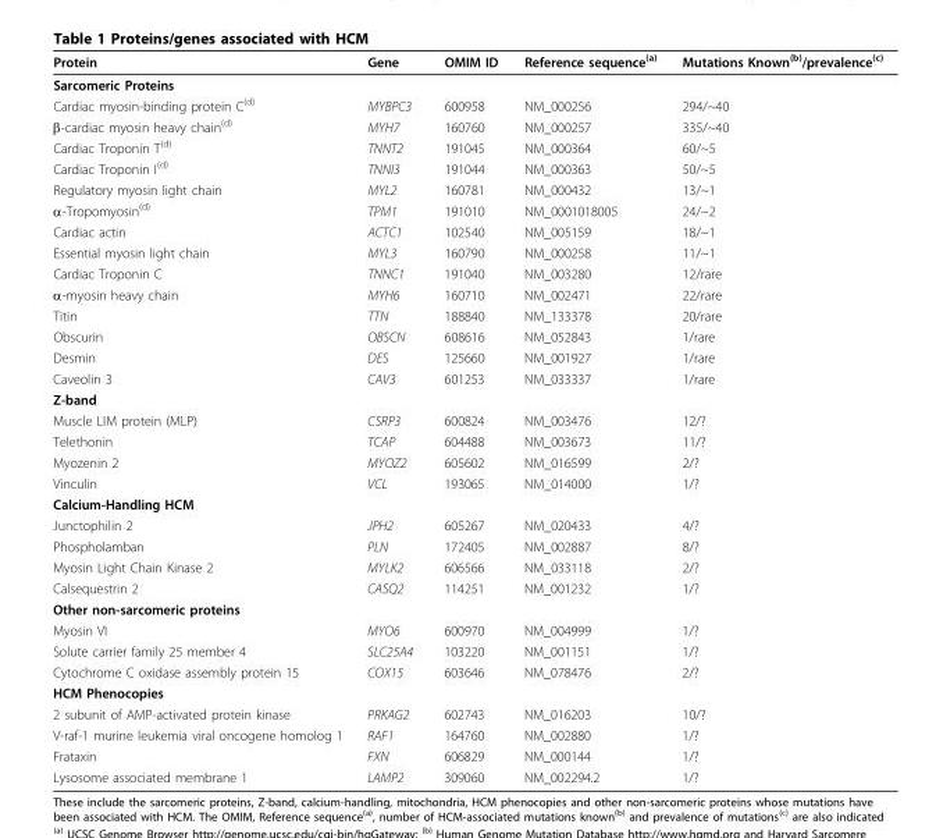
<table><thead><tr><td>Protein</td><td>Gene</td><td>OMIM ID</td><td>Reference sequence<sup>(a)</sup></td><td>Mutations Known<sup>(b)</sup>/prevalence<sup>(c)</sup></td></tr></thead><tbody><tr><td colspan="5">Sarcomeric Proteins</td></tr><tr><td>Cardiac myosin-binding protein C<sup>(d)</sup></td><td>MYBPC3</td><td>600958</td><td>NM_000256</td><td>294/~40</td></tr><tr><td>β-cardiac myosin heavy chain<sup>(d)</sup></td><td>MYH7</td><td>160760</td><td>NM_000257</td><td>335/~40</td></tr><tr><td>Cardiac Troponin T<sup>(d)</sup></td><td>TNNT2</td><td>191045</td><td>NM_000364</td><td>60/~5</td></tr><tr><td>Cardiac Troponin I<sup>(d)</sup></td><td>TNNI3</td><td>191044</td><td>NM_000363</td><td>50/~5</td></tr><tr><td>Regulatory myosin light chain</td><td>MYL2</td><td>160781</td><td>NM_000432</td><td>13/~1</td></tr><tr><td>α-Tropomyosin<sup>(d)</sup></td><td>TPM1</td><td>191010</td><td>NM_0001018005</td><td>24/~2</td></tr><tr><td>Cardiac actin</td><td>ACTC1</td><td>102540</td><td>NM_005159</td><td>18/~1</td></tr><tr><td>Essential myosin light chain</td><td>MYL3</td><td>160790</td><td>NM_000258</td><td>11/~1</td></tr><tr><td>Cardiac Troponin C</td><td>TNNC1</td><td>191040</td><td>NM_003280</td><td>12/rare</td></tr><tr><td>α-myosin heavy chain</td><td>MYH6</td><td>160710</td><td>NM_002471</td><td>22/rare</td></tr><tr><td>Titin</td><td>TTN</td><td>188840</td><td>NM_133378</td><td>20/rare</td></tr><tr><td>Obscurin</td><td>OBSCN</td><td>608616</td><td>NM_052843</td><td>1/rare</td></tr><tr><td>Desmin</td><td>DES</td><td>125660</td><td>NM_001927</td><td>1/rare</td></tr><tr><td>Caveolin 3</td><td>CAV3</td><td>601253</td><td>NM_033337</td><td>1/rare</td></tr><tr><td colspan="5">Z-band</td></tr><tr><td>Muscle LIM protein (MLP)</td><td>CSRP3</td><td>600824</td><td>NM_003476</td><td>12/?</td></tr><tr><td>Telethonin</td><td>TCAP</td><td>604488</td><td>NM_003673</td><td>11/?</td></tr><tr><td>Myozenin 2</td><td>MYOZ2</td><td>605602</td><td>NM_016599</td><td>2/?</td></tr><tr><td>Vinculin</td><td>VCL</td><td>193065</td><td>NM_014000</td><td>1/?</td></tr><tr><td colspan="5">Calcium-Handling HCM</td></tr><tr><td>Junctophilin 2</td><td>JPH2</td><td>605267</td><td>NM_020433</td><td>4/?</td></tr><tr><td>Phospholamban</td><td>PLN</td><td>172405</td><td>NM_002887</td><td>8/?</td></tr><tr><td>Myosin Light Chain Kinase 2</td><td>MYLK2</td><td>606566</td><td>NM_033118</td><td>2/?</td></tr><tr><td>Calsequestrin 2</td><td>CASQ2</td><td>114251</td><td>NM_001232</td><td>1/?</td></tr><tr><td colspan="5">Other non-sarcomeric proteins</td></tr><tr><td>Myosin VI</td><td>MYO6</td><td>600970</td><td>NM_004999</td><td>1/?</td></tr><tr><td>Solute carrier family 25 member 4</td><td>SLC25A4</td><td>103220</td><td>NM_001151</td><td>1/?</td></tr><tr><td>Cytochrome C oxidase assembly protein 15</td><td>COX15</td><td>603646</td><td>NM_078476</td><td>2/?</td></tr><tr><td colspan="5">HCM Phenocopies</td></tr><tr><td>2 subunit of AMP-activated protein kinase</td><td>PRKAG2</td><td>602743</td><td>NM_016203</td><td>10/?</td></tr><tr><td>V-raf-1 murine leukemia viral oncogene homolog 1</td><td>RAF1</td><td>164760</td><td>NM_002880</td><td>1/?</td></tr><tr><td>Frataxin</td><td>FXN</td><td>606829</td><td>NM_000144</td><td>1/?</td></tr><tr><td>Lysosome associated membrane 1</td><td>LAMP2</td><td>309060</td><td>NM_002294.2</td><td>1/?</td></tr></tbody></table>